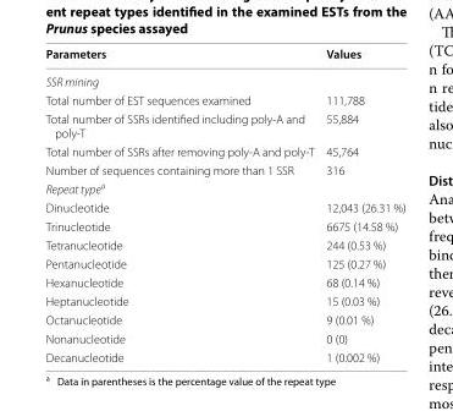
<table><thead><tr><td>Parameters</td><td>Values</td></tr></thead><tbody><tr><td colspan="2">SSR mining</td></tr><tr><td>Total number of EST sequences examined</td><td>111,788</td></tr><tr><td>Total number of SSRs identified including poly‑A and poly‑T</td><td>55,884</td></tr><tr><td>Total number of SSRs after removing poly‑A and poly‑T</td><td>45,764</td></tr><tr><td>Number of sequences containing more than 1 SSR</td><td>316</td></tr><tr><td colspan="2">Repeat type<sup>a</sup></td></tr><tr><td>Dinucleotide</td><td>12,043 (26.31 %)</td></tr><tr><td>Trinucleotide</td><td>6675 (14.58 %)</td></tr><tr><td>Tetranucleotide</td><td>244 (0.53 %)</td></tr><tr><td>Pentanucleotide</td><td>125 (0.27 %)</td></tr><tr><td>Hexanucleotide</td><td>68 (0.14 %)</td></tr><tr><td>Heptanucleotide</td><td>15 (0.03 %)</td></tr><tr><td>Octanucleotide</td><td>9 (0.01 %)</td></tr><tr><td>Nonanucleotide</td><td>0 (0)</td></tr><tr><td>Decanucleotide</td><td>1 (0.002 %)</td></tr></tbody></table>